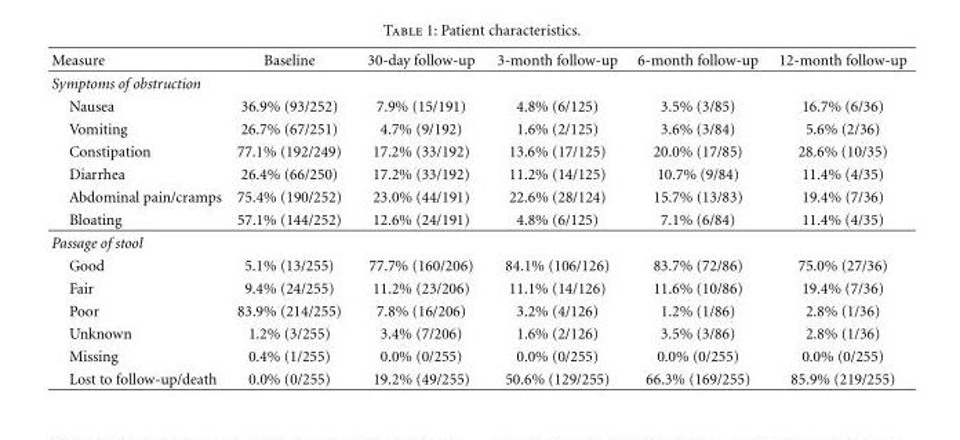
<table><thead><tr><td>Measure</td><td>Baseline</td><td>30-day follow-up</td><td>3-month follow-up</td><td>6-month follow-up</td><td>12-month follow-up</td></tr></thead><tbody><tr><td colspan="6">Symptoms of obstruction</td></tr><tr><td>Nausea</td><td>36.9% (93/252)</td><td>7.9% (15/191)</td><td>4.8% (6/125)</td><td>3.5% (3/85)</td><td>16.7% (6/36)</td></tr><tr><td>Vomiting</td><td>26.7% (67/251)</td><td>4.7% (9/192)</td><td>1.6% (2/125)</td><td>3.6% (3/84)</td><td>5.6% (2/36)</td></tr><tr><td>Constipation</td><td>77.1% (192/249)</td><td>17.2% (33/192)</td><td>13.6% (17/125)</td><td>20.0% (17/85)</td><td>28.6% (10/35)</td></tr><tr><td>Diarrhea</td><td>26.4% (66/250)</td><td>17.2% (33/192)</td><td>11.2% (14/125)</td><td>10.7% (9/84)</td><td>11.4% (4/35)</td></tr><tr><td>Abdominal pain/cramps</td><td>75.4% (190/252)</td><td>23.0% (44/191)</td><td>22.6% (28/124)</td><td>15.7% (13/83)</td><td>19.4% (7/36)</td></tr><tr><td>Bloating</td><td>57.1% (144/252)</td><td>12.6% (24/191)</td><td>4.8% (6/125)</td><td>7.1% (6/84)</td><td>11.4% (4/35)</td></tr><tr><td colspan="6">Passage of stool</td></tr><tr><td>Good</td><td>5.1% (13/255)</td><td>77.7% (160/206)</td><td>84.1% (106/126)</td><td>83.7% (72/86)</td><td>75.0% (27/36)</td></tr><tr><td>Fair</td><td>9.4% (24/255)</td><td>11.2% (23/206)</td><td>11.1% (14/126)</td><td>11.6% (10/86)</td><td>19.4% (7/36)</td></tr><tr><td>Poor</td><td>83.9% (214/255)</td><td>7.8% (16/206)</td><td>3.2% (4/126)</td><td>1.2% (1/86)</td><td>2.8% (1/36)</td></tr><tr><td>Unknown</td><td>1.2% (3/255)</td><td>3.4% (7/206)</td><td>1.6% (2/126)</td><td>3.5% (3/86)</td><td>2.8% (1/36)</td></tr><tr><td>Missing</td><td>0.4% (1/255)</td><td>0.0% (0/255)</td><td>0.0% (0/255)</td><td>0.0% (0/255)</td><td>0.0% (0/255)</td></tr><tr><td>Lost to follow-up/death</td><td>0.0% (0/255)</td><td>19.2% (49/255)</td><td>50.6% (129/255)</td><td>66.3% (169/255)</td><td>85.9% (219/255)</td></tr></tbody></table>